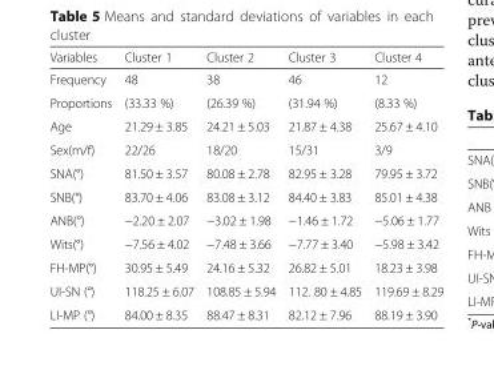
<table><thead><tr><td>Variables</td><td>Cluster 1</td><td>Cluster 2</td><td>Cluster 3</td><td>Cluster 4</td></tr></thead><tbody><tr><td>Frequency</td><td>48</td><td>38</td><td>46</td><td>12</td></tr><tr><td>Proportions</td><td>(33.33 %)</td><td>(26.39 %)</td><td>(31.94 %)</td><td>(8.33 %)</td></tr><tr><td>Age</td><td>21.29 ± 3.85</td><td>24.21 ± 5.03</td><td>21.87 ± 4.38</td><td>25.67 ± 4.10</td></tr><tr><td>Sex(m/f)</td><td>22/26</td><td>18/20</td><td>15/31</td><td>3/9</td></tr><tr><td>SNA(°)</td><td>81.50 ± 3.57</td><td>80.08 ± 2.78</td><td>82.95 ± 3.28</td><td>79.95 ± 3.72</td></tr><tr><td>SNB(°)</td><td>83.70 ± 4.06</td><td>83.08 ± 3.12</td><td>84.40 ± 3.83</td><td>85.01 ± 4.38</td></tr><tr><td>ANB(°)</td><td>−2.20 ± 2.07</td><td>−3.02 ± 1.98</td><td>−1.46 ± 1.72</td><td>−5.06 ± 1.77</td></tr><tr><td>Wits(°)</td><td>−7.56 ± 4.02</td><td>−7.48 ± 3.66</td><td>−7.77 ± 3.40</td><td>−5.98 ± 3.42</td></tr><tr><td>FH-MP(°)</td><td>30.95 ± 5.49</td><td>24.16 ± 5.32</td><td>26.82 ± 5.01</td><td>18.23 ± 3.98</td></tr><tr><td>UI-SN (°)</td><td>118.25 ± 6.07</td><td>108.85 ± 5.94</td><td>112. 80 ± 4.85</td><td>119.69 ± 8.29</td></tr><tr><td>LI-MP (°)</td><td>84.00 ± 8.35</td><td>88.47 ± 8.31</td><td>82.12 ± 7.96</td><td>88.19 ± 3.90</td></tr></tbody></table>